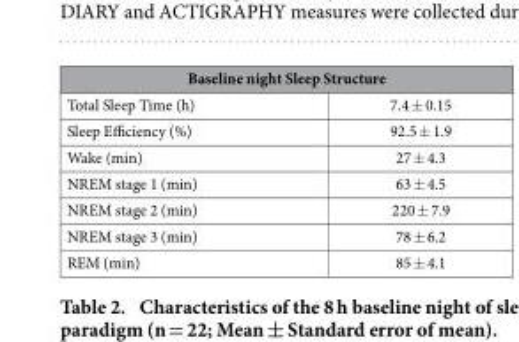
<table><thead><tr><td colspan="2">Baseline night Sleep Structure</td></tr><tr><td>Total Sleep Time (h)</td><td>7.4 ± 0.15</td></tr></thead><tbody><tr><td>Sleep Efficiency (%)</td><td>92.5 ± 1.9</td></tr><tr><td>Wake (min)</td><td>27 ± 4.3</td></tr><tr><td>NREM stage 1 (min)</td><td>63 ± 4.5</td></tr><tr><td>NREM stage 2 (min)</td><td>220 ± 7.9</td></tr><tr><td>NREM stage 3 (min)</td><td>78 ± 6.2</td></tr><tr><td>REM (min)</td><td>85 ± 4.1</td></tr></tbody></table>